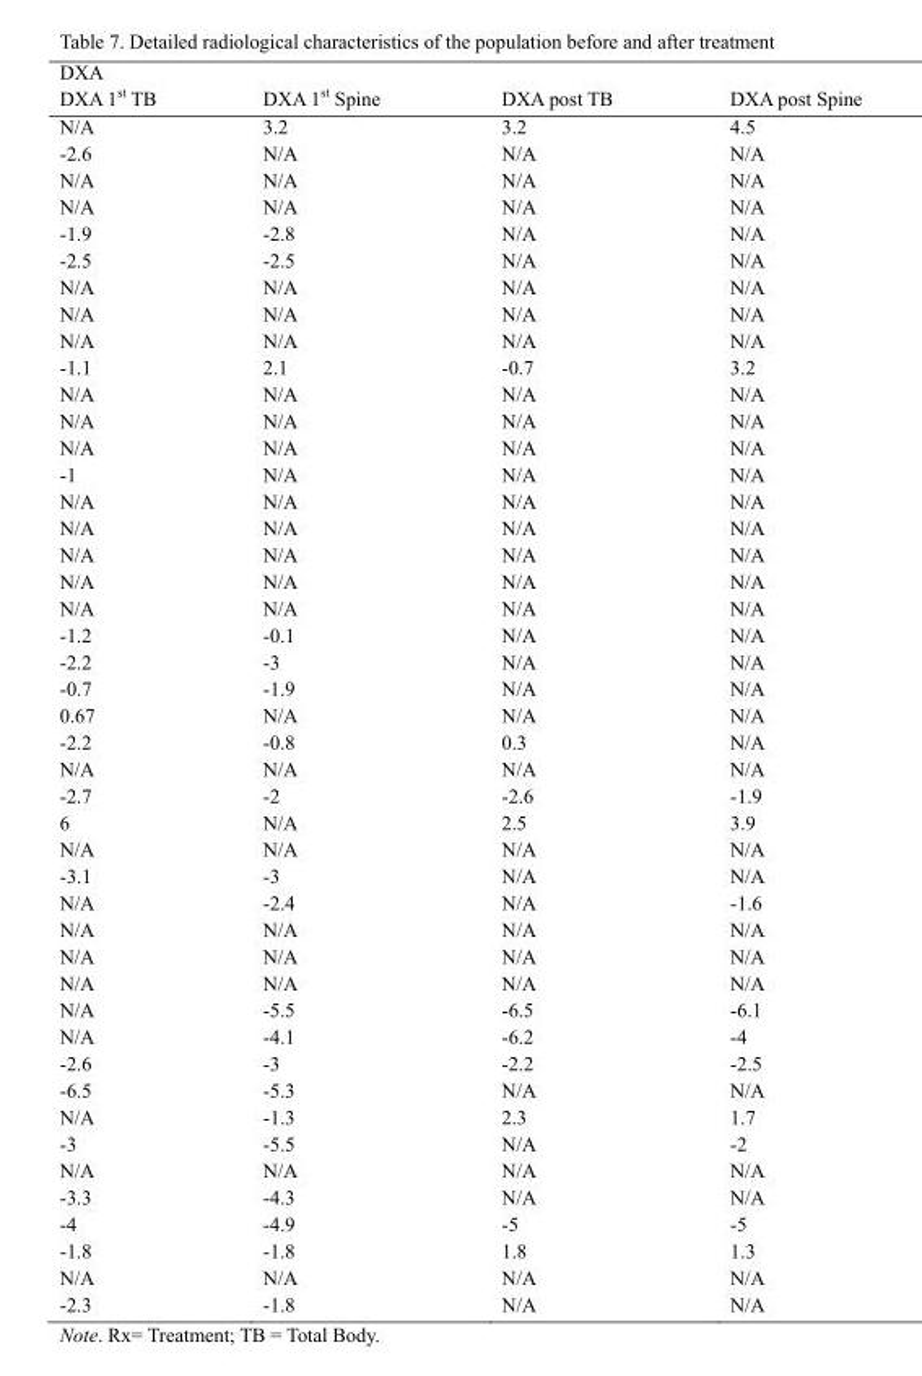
<table><thead><tr><td colspan="4">DXA</td></tr><tr><td>DXA 1<sup>st</sup> TB</td><td>DXA 1<sup>st</sup> Spine</td><td>DXA post TB</td><td>DXA post Spine</td></tr></thead><tbody><tr><td>N/A</td><td>3.2</td><td>3.2</td><td>4.5</td></tr><tr><td>-2.6</td><td>N/A</td><td>N/A</td><td>N/A</td></tr><tr><td>N/A</td><td>N/A</td><td>N/A</td><td>N/A</td></tr><tr><td>N/A</td><td>N/A</td><td>N/A</td><td>N/A</td></tr><tr><td>-1.9</td><td>-2.8</td><td>N/A</td><td>N/A</td></tr><tr><td>-2.5</td><td>-2.5</td><td>N/A</td><td>N/A</td></tr><tr><td>N/A</td><td>N/A</td><td>N/A</td><td>N/A</td></tr><tr><td>N/A</td><td>N/A</td><td>N/A</td><td>N/A</td></tr><tr><td>N/A</td><td>N/A</td><td>N/A</td><td>N/A</td></tr><tr><td>-1.1</td><td>2.1</td><td>-0.7</td><td>3.2</td></tr><tr><td>N/A</td><td>N/A</td><td>N/A</td><td>N/A</td></tr><tr><td>N/A</td><td>N/A</td><td>N/A</td><td>N/A</td></tr><tr><td>N/A</td><td>N/A</td><td>N/A</td><td>N/A</td></tr><tr><td>-1</td><td>N/A</td><td>N/A</td><td>N/A</td></tr><tr><td>N/A</td><td>N/A</td><td>N/A</td><td>N/A</td></tr><tr><td>N/A</td><td>N/A</td><td>N/A</td><td>N/A</td></tr><tr><td>N/A</td><td>N/A</td><td>N/A</td><td>N/A</td></tr><tr><td>N/A</td><td>N/A</td><td>N/A</td><td>N/A</td></tr><tr><td>N/A</td><td>N/A</td><td>N/A</td><td>N/A</td></tr><tr><td>-1.2</td><td>-0.1</td><td>N/A</td><td>N/A</td></tr><tr><td>-2.2</td><td>-3</td><td>N/A</td><td>N/A</td></tr><tr><td>-0.7</td><td>-1.9</td><td>N/A</td><td>N/A</td></tr><tr><td>0.67</td><td>N/A</td><td>N/A</td><td>N/A</td></tr><tr><td>-2.2</td><td>-0.8</td><td>0.3</td><td>N/A</td></tr><tr><td>N/A</td><td>N/A</td><td>N/A</td><td>N/A</td></tr><tr><td>-2.7</td><td>-2</td><td>-2.6</td><td>-1.9</td></tr><tr><td>6</td><td>N/A</td><td>2.5</td><td>3.9</td></tr><tr><td>N/A</td><td>N/A</td><td>N/A</td><td>N/A</td></tr><tr><td>-3.1</td><td>-3</td><td>N/A</td><td>N/A</td></tr><tr><td>N/A</td><td>-2.4</td><td>N/A</td><td>-1.6</td></tr><tr><td>N/A</td><td>N/A</td><td>N/A</td><td>N/A</td></tr><tr><td>N/A</td><td>N/A</td><td>N/A</td><td>N/A</td></tr><tr><td>N/A</td><td>N/A</td><td>N/A</td><td>N/A</td></tr><tr><td>N/A</td><td>-5.5</td><td>-6.5</td><td>-6.1</td></tr><tr><td>N/A</td><td>-4.1</td><td>-6.2</td><td>-4</td></tr><tr><td>-2.6</td><td>-3</td><td>-2.2</td><td>-2.5</td></tr><tr><td>-6.5</td><td>-5.3</td><td>N/A</td><td>N/A</td></tr><tr><td>N/A</td><td>-1.3</td><td>2.3</td><td>1.7</td></tr><tr><td>-3</td><td>-5.5</td><td>N/A</td><td>-2</td></tr><tr><td>N/A</td><td>N/A</td><td>N/A</td><td>N/A</td></tr><tr><td>-3.3</td><td>-4.3</td><td>N/A</td><td>N/A</td></tr><tr><td>-4</td><td>-4.9</td><td>-5</td><td>-5</td></tr><tr><td>-1.8</td><td>-1.8</td><td>1.8</td><td>1.3</td></tr><tr><td>N/A</td><td>N/A</td><td>N/A</td><td>N/A</td></tr><tr><td>-2.3</td><td>-1.8</td><td>N/A</td><td>N/A</td></tr></tbody></table>